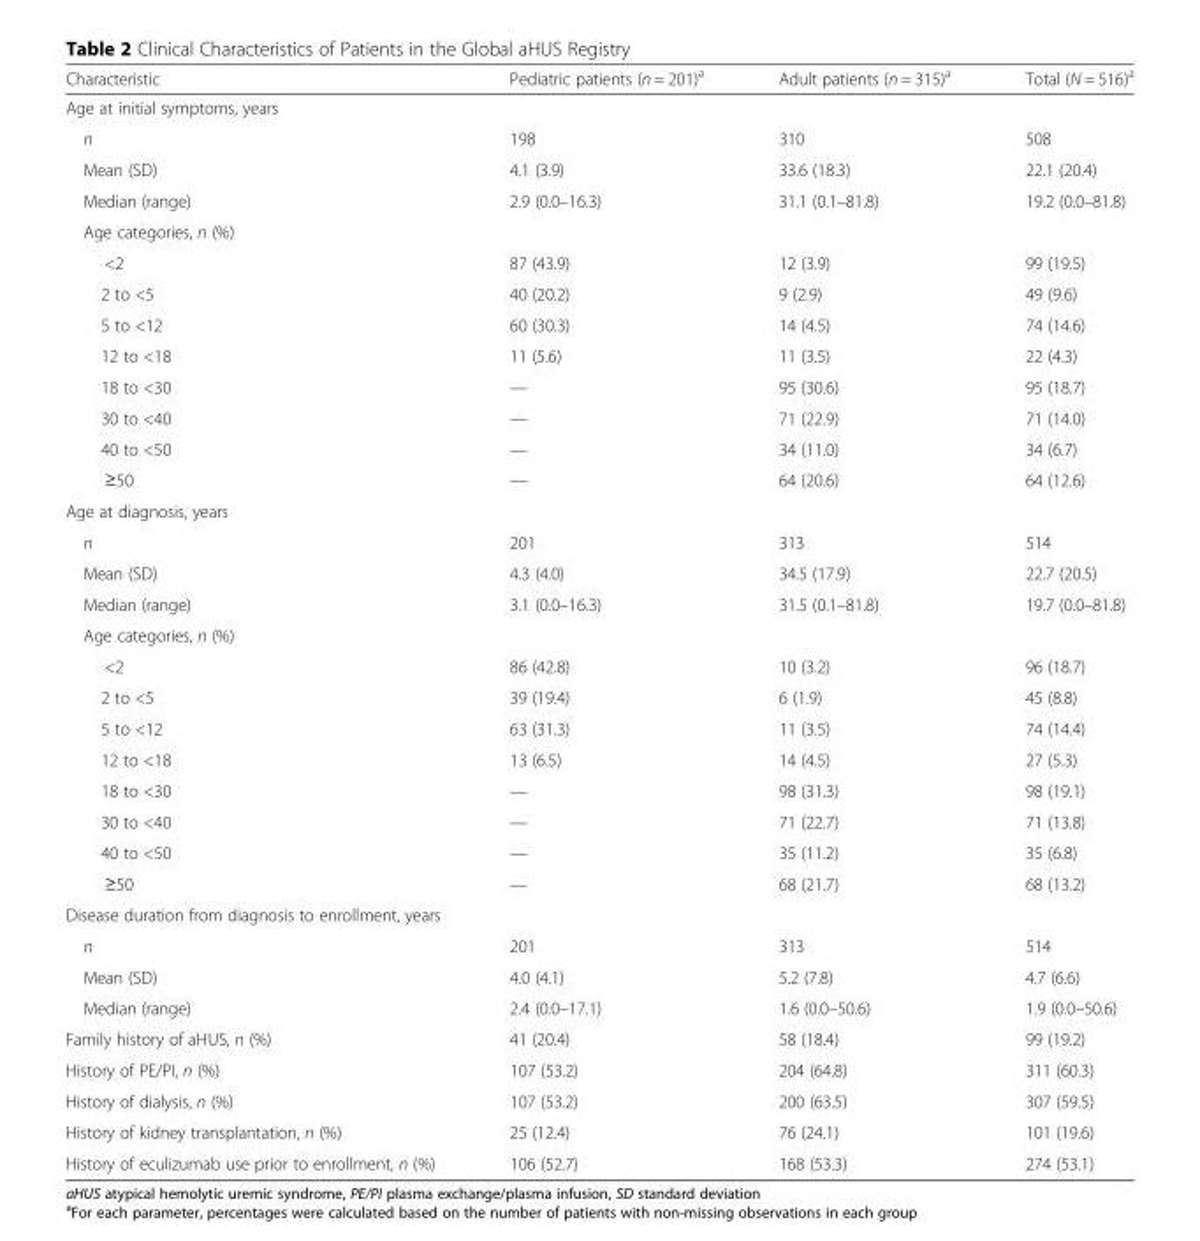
<table><thead><tr><td>Characteristic</td><td>Pediatric patients (n = 201)<sup>a</sup></td><td>Adult patients (n = 315)<sup>a</sup></td><td>Total (N = 516)<sup>a</sup></td></tr></thead><tbody><tr><td colspan="4">Age at initial symptoms, years</td></tr><tr><td>n</td><td>198</td><td>310</td><td>508</td></tr><tr><td>Mean (SD)</td><td>4.1 (3.9)</td><td>33.6 (18.3)</td><td>22.1 (20.4)</td></tr><tr><td>Median (range)</td><td>2.9 (0.0–16.3)</td><td>31.1 (0.1–81.8)</td><td>19.2 (0.0–81.8)</td></tr><tr><td colspan="4">Age categories, n (%)</td></tr><tr><td>&lt;2</td><td>87 (43.9)</td><td>12 (3.9)</td><td>99 (19.5)</td></tr><tr><td>2 to &lt;5</td><td>40 (20.2)</td><td>9 (2.9)</td><td>49 (9.6)</td></tr><tr><td>5 to &lt;12</td><td>60 (30.3)</td><td>14 (4.5)</td><td>74 (14.6)</td></tr><tr><td>12 to &lt;18</td><td>11 (5.6)</td><td>11 (3.5)</td><td>22 (4.3)</td></tr><tr><td>18 to &lt;30</td><td>—</td><td>95 (30.6)</td><td>95 (18.7)</td></tr><tr><td>30 to &lt;40</td><td>—</td><td>71 (22.9)</td><td>71 (14.0)</td></tr><tr><td>40 to &lt;50</td><td>—</td><td>34 (11.0)</td><td>34 (6.7)</td></tr><tr><td>≥50</td><td>—</td><td>64 (20.6)</td><td>64 (12.6)</td></tr><tr><td colspan="4">Age at diagnosis, years</td></tr><tr><td>n</td><td>201</td><td>313</td><td>514</td></tr><tr><td>Mean (SD)</td><td>4.3 (4.0)</td><td>34.5 (17.9)</td><td>22.7 (20.5)</td></tr><tr><td>Median (range)</td><td>3.1 (0.0–16.3)</td><td>31.5 (0.1–81.8)</td><td>19.7 (0.0–81.8)</td></tr><tr><td colspan="4">Age categories, n (%)</td></tr><tr><td>&lt;2</td><td>86 (42.8)</td><td>10 (3.2)</td><td>96 (18.7)</td></tr><tr><td>2 to &lt;5</td><td>39 (19.4)</td><td>6 (1.9)</td><td>45 (8.8)</td></tr><tr><td>5 to &lt;12</td><td>63 (31.3)</td><td>11 (3.5)</td><td>74 (14.4)</td></tr><tr><td>12 to &lt;18</td><td>13 (6.5)</td><td>14 (4.5)</td><td>27 (5.3)</td></tr><tr><td>18 to &lt;30</td><td>—</td><td>98 (31.3)</td><td>98 (19.1)</td></tr><tr><td>30 to &lt;40</td><td>—</td><td>71 (22.7)</td><td>71 (13.8)</td></tr><tr><td>40 to &lt;50</td><td>—</td><td>35 (11.2)</td><td>35 (6.8)</td></tr><tr><td>≥50</td><td>—</td><td>68 (21.7)</td><td>68 (13.2)</td></tr><tr><td colspan="4">Disease duration from diagnosis to enrollment, years</td></tr><tr><td>n</td><td>201</td><td>313</td><td>514</td></tr><tr><td>Mean (SD)</td><td>4.0 (4.1)</td><td>5.2 (7.8)</td><td>4.7 (6.6)</td></tr><tr><td>Median (range)</td><td>2.4 (0.0–17.1)</td><td>1.6 (0.0–50.6)</td><td>1.9 (0.0–50.6)</td></tr><tr><td>Family history of aHUS, n (%)</td><td>41 (20.4)</td><td>58 (18.4)</td><td>99 (19.2)</td></tr><tr><td>History of PE/PI, n (%)</td><td>107 (53.2)</td><td>204 (64.8)</td><td>311 (60.3)</td></tr><tr><td>History of dialysis, n (%)</td><td>107 (53.2)</td><td>200 (63.5)</td><td>307 (59.5)</td></tr><tr><td>History of kidney transplantation, n (%)</td><td>25 (12.4)</td><td>76 (24.1)</td><td>101 (19.6)</td></tr><tr><td>History of eculizumab use prior to enrollment, n (%)</td><td>106 (52.7)</td><td>168 (53.3)</td><td>274 (53.1)</td></tr></tbody></table>